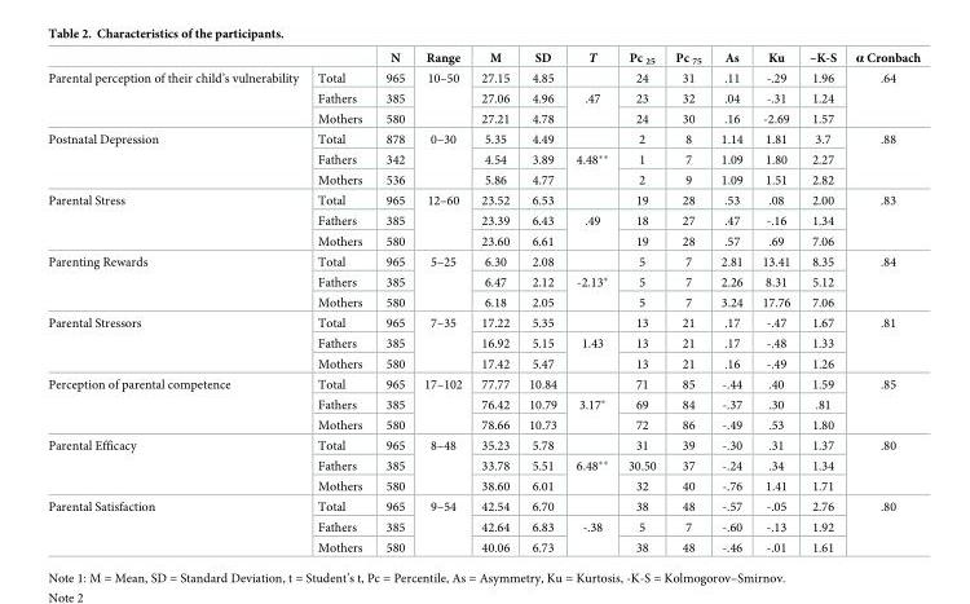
<table><thead><tr><td></td><td></td><td>N</td><td>Range</td><td>M</td><td>SD</td><td>T</td><td>Pc <sub>25</sub></td><td>Pc <sub>75</sub></td><td>As</td><td>Ku</td><td>–K-S</td><td>α Cronbach</td></tr></thead><tbody><tr><td rowspan="3">Parental perception of their child’s vulnerability</td><td>Total</td><td>965</td><td rowspan="3">10–50</td><td>27.15</td><td>4.85</td><td></td><td>24</td><td>31</td><td>.11</td><td>-.29</td><td>1.96</td><td rowspan="3">.64</td></tr><tr><td>Fathers</td><td>385</td><td>27.06</td><td>4.96</td><td rowspan="2">.47</td><td>23</td><td>32</td><td>.04</td><td>-.31</td><td>1.24</td></tr><tr><td>Mothers</td><td>580</td><td>27.21</td><td>4.78</td><td>24</td><td>30</td><td>.16</td><td>-2.69</td><td>1.57</td></tr><tr><td rowspan="3">Postnatal Depression</td><td>Total</td><td>878</td><td rowspan="3">0–30</td><td>5.35</td><td>4.49</td><td></td><td>2</td><td>8</td><td>1.14</td><td>1.81</td><td>3.7</td><td rowspan="3">.88</td></tr><tr><td>Fathers</td><td>342</td><td>4.54</td><td>3.89</td><td rowspan="2">4.48**</td><td>1</td><td>7</td><td>1.09</td><td>1.80</td><td>2.27</td></tr><tr><td>Mothers</td><td>536</td><td>5.86</td><td>4.77</td><td>2</td><td>9</td><td>1.09</td><td>1.51</td><td>2.82</td></tr><tr><td rowspan="3">Parental Stress</td><td>Total</td><td>965</td><td rowspan="3">12–60</td><td>23.52</td><td>6.53</td><td></td><td>19</td><td>28</td><td>.53</td><td>.08</td><td>2.00</td><td rowspan="3">.83</td></tr><tr><td>Fathers</td><td>385</td><td>23.39</td><td>6.43</td><td rowspan="2">.49</td><td>18</td><td>27</td><td>.47</td><td>-.16</td><td>1.34</td></tr><tr><td>Mothers</td><td>580</td><td>23.60</td><td>6.61</td><td>19</td><td>28</td><td>.57</td><td>.69</td><td>7.06</td></tr><tr><td rowspan="3">Parenting Rewards</td><td>Total</td><td>965</td><td rowspan="3">5–25</td><td>6.30</td><td>2.08</td><td></td><td>5</td><td>7</td><td>2.81</td><td>13.41</td><td>8.35</td><td rowspan="3">.84</td></tr><tr><td>Fathers</td><td>385</td><td>6.47</td><td>2.12</td><td rowspan="2">-2.13*</td><td>5</td><td>7</td><td>2.26</td><td>8.31</td><td>5.12</td></tr><tr><td>Mothers</td><td>580</td><td>6.18</td><td>2.05</td><td>5</td><td>7</td><td>3.24</td><td>17.76</td><td>7.06</td></tr><tr><td rowspan="3">Parental Stressors</td><td>Total</td><td>965</td><td rowspan="3">7–35</td><td>17.22</td><td>5.35</td><td></td><td>13</td><td>21</td><td>.17</td><td>-.47</td><td>1.67</td><td rowspan="3">.81</td></tr><tr><td>Fathers</td><td>385</td><td>16.92</td><td>5.15</td><td rowspan="2">1.43</td><td>13</td><td>21</td><td>.17</td><td>-.48</td><td>1.33</td></tr><tr><td>Mothers</td><td>580</td><td>17.42</td><td>5.47</td><td>13</td><td>21</td><td>.16</td><td>-.49</td><td>1.26</td></tr><tr><td rowspan="3">Perception of parental competence</td><td>Total</td><td>965</td><td rowspan="3">17–102</td><td>77.77</td><td>10.84</td><td></td><td>71</td><td>85</td><td>-.44</td><td>.40</td><td>1.59</td><td rowspan="3">.85</td></tr><tr><td>Fathers</td><td>385</td><td>76.42</td><td>10.79</td><td rowspan="2">3.17*</td><td>69</td><td>84</td><td>-.37</td><td>.30</td><td>.81</td></tr><tr><td>Mothers</td><td>580</td><td>78.66</td><td>10.73</td><td>72</td><td>86</td><td>-.49</td><td>.53</td><td>1.80</td></tr><tr><td rowspan="3">Parental Efficacy</td><td>Total</td><td>965</td><td rowspan="3">8–48</td><td>35.23</td><td>5.78</td><td></td><td>31</td><td>39</td><td>-.30</td><td>.31</td><td>1.37</td><td rowspan="3">.80</td></tr><tr><td>Fathers</td><td>385</td><td>33.78</td><td>5.51</td><td rowspan="2">6.48**</td><td>30.50</td><td>37</td><td>-.24</td><td>.34</td><td>1.34</td></tr><tr><td>Mothers</td><td>580</td><td>38.60</td><td>6.01</td><td>32</td><td>40</td><td>-.76</td><td>1.41</td><td>1.71</td></tr><tr><td rowspan="3">Parental Satisfaction</td><td>Total</td><td>965</td><td rowspan="3">9–54</td><td>42.54</td><td>6.70</td><td></td><td>38</td><td>48</td><td>-.57</td><td>-.05</td><td>2.76</td><td rowspan="3">.80</td></tr><tr><td>Fathers</td><td>385</td><td>42.64</td><td>6.83</td><td rowspan="2">-.38</td><td>5</td><td>7</td><td>-.60</td><td>-.13</td><td>1.92</td></tr><tr><td>Mothers</td><td>580</td><td>40.06</td><td>6.73</td><td>38</td><td>48</td><td>-.46</td><td>-.01</td><td>1.61</td></tr></tbody></table>